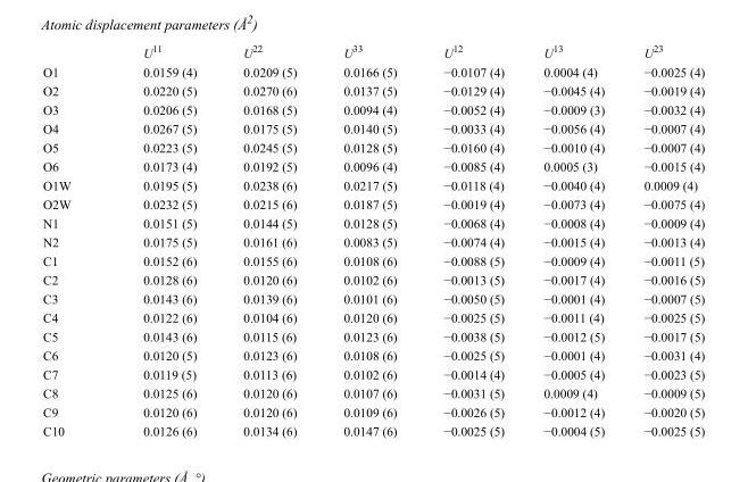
<table><thead><tr><td></td><td>U<sup>11</sup></td><td>U<sup>22</sup></td><td>U<sup>33</sup></td><td>U<sup>12</sup></td><td>U<sup>13</sup></td><td>U<sup>23</sup></td></tr></thead><tbody><tr><td>O1</td><td>0.0159 (4)</td><td>0.0209 (5)</td><td>0.0166 (5)</td><td>−0.0107 (4)</td><td>0.0004 (4)</td><td>−0.0025 (4)</td></tr><tr><td>O2</td><td>0.0220 (5)</td><td>0.0270 (6)</td><td>0.0137 (5)</td><td>−0.0129 (4)</td><td>−0.0045 (4)</td><td>−0.0019 (4)</td></tr><tr><td>O3</td><td>0.0206 (5)</td><td>0.0168 (5)</td><td>0.0094 (4)</td><td>−0.0052 (4)</td><td>−0.0009 (3)</td><td>−0.0032 (4)</td></tr><tr><td>O4</td><td>0.0267 (5)</td><td>0.0175 (5)</td><td>0.0140 (5)</td><td>−0.0033 (4)</td><td>−0.0056 (4)</td><td>−0.0007 (4)</td></tr><tr><td>O5</td><td>0.0223 (5)</td><td>0.0245 (5)</td><td>0.0128 (5)</td><td>−0.0160 (4)</td><td>−0.0010 (4)</td><td>−0.0007 (4)</td></tr><tr><td>O6</td><td>0.0173 (4)</td><td>0.0192 (5)</td><td>0.0096 (4)</td><td>−0.0085 (4)</td><td>0.0005 (3)</td><td>−0.0015 (4)</td></tr><tr><td>O1W</td><td>0.0195 (5)</td><td>0.0238 (6)</td><td>0.0217 (5)</td><td>−0.0118 (4)</td><td>−0.0040 (4)</td><td>0.0009 (4)</td></tr><tr><td>O2W</td><td>0.0232 (5)</td><td>0.0215 (6)</td><td>0.0187 (5)</td><td>−0.0019 (4)</td><td>−0.0073 (4)</td><td>−0.0075 (4)</td></tr><tr><td>N1</td><td>0.0151 (5)</td><td>0.0144 (5)</td><td>0.0128 (5)</td><td>−0.0068 (4)</td><td>−0.0008 (4)</td><td>−0.0009 (4)</td></tr><tr><td>N2</td><td>0.0175 (5)</td><td>0.0161 (6)</td><td>0.0083 (5)</td><td>−0.0074 (4)</td><td>−0.0015 (4)</td><td>−0.0013 (4)</td></tr><tr><td>C1</td><td>0.0152 (6)</td><td>0.0155 (6)</td><td>0.0108 (6)</td><td>−0.0088 (5)</td><td>−0.0009 (4)</td><td>−0.0011 (5)</td></tr><tr><td>C2</td><td>0.0128 (6)</td><td>0.0120 (6)</td><td>0.0102 (6)</td><td>−0.0013 (5)</td><td>−0.0017 (4)</td><td>−0.0016 (5)</td></tr><tr><td>C3</td><td>0.0143 (6)</td><td>0.0139 (6)</td><td>0.0101 (6)</td><td>−0.0050 (5)</td><td>−0.0001 (4)</td><td>−0.0007 (5)</td></tr><tr><td>C4</td><td>0.0122 (6)</td><td>0.0104 (6)</td><td>0.0120 (6)</td><td>−0.0025 (5)</td><td>−0.0011 (4)</td><td>−0.0025 (5)</td></tr><tr><td>C5</td><td>0.0143 (6)</td><td>0.0115 (6)</td><td>0.0123 (6)</td><td>−0.0038 (5)</td><td>−0.0012 (5)</td><td>−0.0017 (5)</td></tr><tr><td>C6</td><td>0.0120 (5)</td><td>0.0123 (6)</td><td>0.0108 (6)</td><td>−0.0025 (5)</td><td>−0.0001 (4)</td><td>−0.0031 (4)</td></tr><tr><td>C7</td><td>0.0119 (5)</td><td>0.0113 (6)</td><td>0.0102 (6)</td><td>−0.0014 (4)</td><td>−0.0005 (4)</td><td>−0.0023 (5)</td></tr><tr><td>C8</td><td>0.0125 (6)</td><td>0.0120 (6)</td><td>0.0107 (6)</td><td>−0.0031 (5)</td><td>0.0009 (4)</td><td>−0.0009 (5)</td></tr><tr><td>C9</td><td>0.0120 (6)</td><td>0.0120 (6)</td><td>0.0109 (6)</td><td>−0.0026 (5)</td><td>−0.0012 (4)</td><td>−0.0020 (5)</td></tr><tr><td>C10</td><td>0.0126 (6)</td><td>0.0134 (6)</td><td>0.0147 (6)</td><td>−0.0025 (5)</td><td>−0.0004 (5)</td><td>−0.0025 (5)</td></tr></tbody></table>